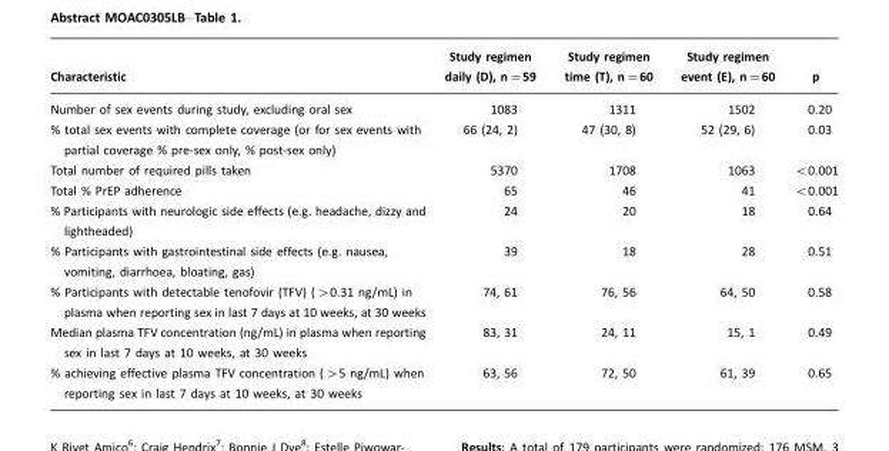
<table><thead><tr><td>Characteristic</td><td>Study regimen daily (D), n=59</td><td>Study regimen time (T), n=60</td><td>Study regimen event (E), n=60</td><td>p</td></tr></thead><tbody><tr><td>Number of sex events during study, excluding oral sex</td><td>1083</td><td>1311</td><td>1502</td><td>0.20</td></tr><tr><td>% total sex events with complete coverage (or for sex events with partial coverage % pre-sex only, % post-sex only)</td><td>66 (24, 2)</td><td>47 (30, 8)</td><td>52 (29, 6)</td><td>0.03</td></tr><tr><td>Total number of required pills taken</td><td>5370</td><td>1708</td><td>1063</td><td>&lt;0.001</td></tr><tr><td>Total % PrEP adherence</td><td>65</td><td>46</td><td>41</td><td>&lt;0.001</td></tr><tr><td>% Participants with neurologic side effects (e.g. headache, dizzy and lightheaded)</td><td>24</td><td>20</td><td>18</td><td>0.64</td></tr><tr><td>% Participants with gastrointestinal side effects (e.g. nausea, vomiting, diarrhoea, bloating, gas)</td><td>39</td><td>18</td><td>28</td><td>0.51</td></tr><tr><td>% Participants with detectable tenofovir (TFV) (&gt;0.31 ng/mL) in plasma when reporting sex in last 7 days at 10 weeks, at 30 weeks</td><td>74, 61</td><td>76, 56</td><td>64, 50</td><td>0.58</td></tr><tr><td>Median plasma TFV concentration (ng/mL) in plasma when reporting sex in last 7 days at 10 weeks, at 30 weeks</td><td>83, 31</td><td>24, 11</td><td>15, 1</td><td>0.49</td></tr><tr><td>% achieving effective plasma TFV concentration (&gt;5 ng/mL) when reporting sex in last 7 days at 10 weeks, at 30 weeks</td><td>63, 56</td><td>72, 50</td><td>61, 39</td><td>0.65</td></tr></tbody></table>